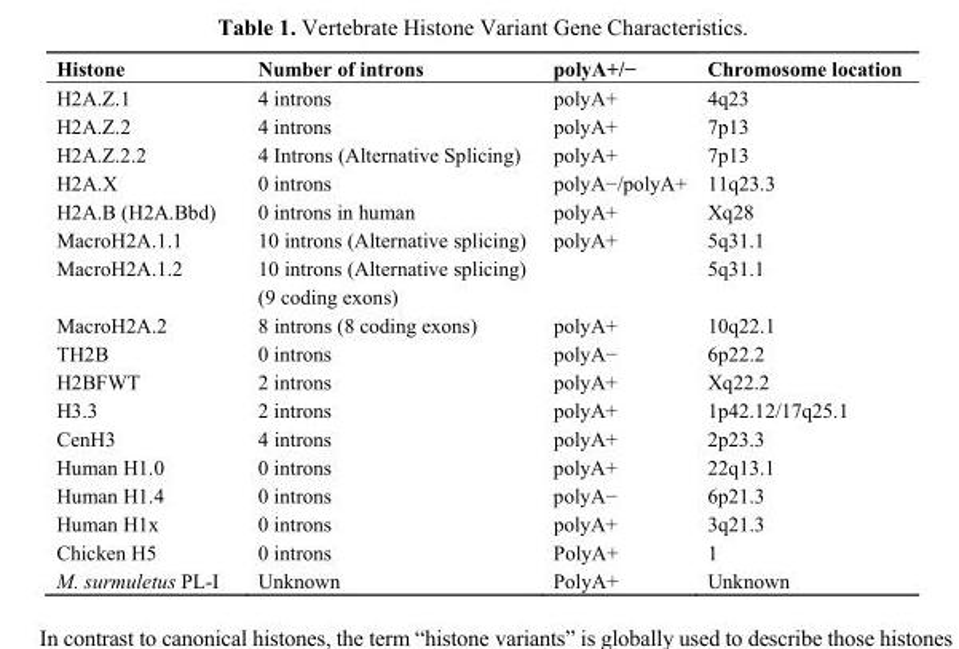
<table><thead><tr><td>Histone</td><td>Number of introns</td><td>polyA+/−</td><td>Chromosome location</td></tr></thead><tbody><tr><td>H2A.Z.1</td><td>4 introns</td><td>polyA+</td><td>4q23</td></tr><tr><td>H2A.Z.2</td><td>4 introns</td><td>polyA+</td><td>7p13</td></tr><tr><td>H2A.Z.2.2</td><td>4 Introns (Alternative Splicing)</td><td>polyA+</td><td>7p13</td></tr><tr><td>H2A.X</td><td>0 introns</td><td>polyA−/polyA+</td><td>11q23.3</td></tr><tr><td>H2A.B (H2A.Bbd)</td><td>0 introns in human</td><td>polyA+</td><td>Xq28</td></tr><tr><td>MacroH2A.1.1</td><td>10 introns (Alternative splicing)</td><td>polyA+</td><td>5q31.1</td></tr><tr><td rowspan="2">MacroH2A.1.2</td><td>10 introns (Alternative splicing)</td><td></td><td>5q31.1</td></tr><tr><td>(9 coding exons)</td><td></td><td></td></tr><tr><td>MacroH2A.2</td><td>8 introns (8 coding exons)</td><td>polyA+</td><td>10q22.1</td></tr><tr><td>TH2B</td><td>0 introns</td><td>polyA−</td><td>6p22.2</td></tr><tr><td>H2BFWT</td><td>2 introns</td><td>polyA+</td><td>Xq22.2</td></tr><tr><td>H3.3</td><td>2 introns</td><td>polyA+</td><td>1p42.12/17q25.1</td></tr><tr><td>CenH3</td><td>4 introns</td><td>polyA+</td><td>2p23.3</td></tr><tr><td>Human H1.0</td><td>0 introns</td><td>polyA+</td><td>22q13.1</td></tr><tr><td>Human H1.4</td><td>0 introns</td><td>polyA−</td><td>6p21.3</td></tr><tr><td>Human H1x</td><td>0 introns</td><td>polyA+</td><td>3q21.3</td></tr><tr><td>Chicken H5</td><td>0 introns</td><td>PolyA+</td><td>1</td></tr><tr><td>M. surmuletus PL-I</td><td>Unknown</td><td>PolyA+</td><td>Unknown</td></tr></tbody></table>